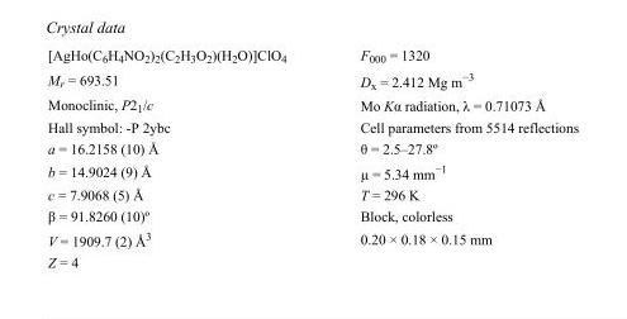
<table><tbody><tr><td>[AgHo(C<sub>6</sub>H<sub>4</sub>NO<sub>2</sub>)<sub>2</sub>(C<sub>2</sub>H<sub>3</sub>O<sub>2</sub>)(H<sub>2</sub>O)]ClO<sub>4</sub></td><td>F000 = 1320</td></tr><tr><td>M<sub>r</sub> = 693.51</td><td>D<sub>x</sub> = 2.412 Mg m<sup>−3</sup></td></tr><tr><td>Monoclinic, P2<sub>1</sub>/c</td><td>Mo Kα radiation, λ = 0.71073 Å</td></tr><tr><td>Hall symbol: -P 2ybc</td><td>Cell parameters from 5514 reflections</td></tr><tr><td>a = 16.2158 (10) Å</td><td>θ = 2.5–27.8º</td></tr><tr><td>b = 14.9024 (9) Å</td><td>µ = 5.34 mm<sup>−1</sup></td></tr><tr><td>c = 7.9068 (5) Å</td><td>T = 296 K</td></tr><tr><td>β = 91.8260 (10)º</td><td>Block, colorless</td></tr><tr><td>V = 1909.7 (2) Å<sup>3</sup></td><td>0.20 × 0.18 × 0.15 mm</td></tr><tr><td>Z = 4</td><td></td></tr></tbody></table>